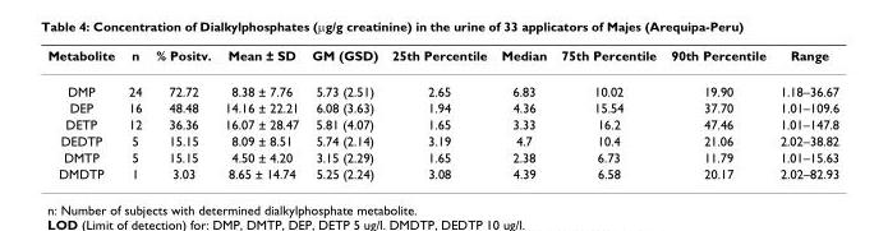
<table><thead><tr><td>Metabolite</td><td>n</td><td>% Positv.</td><td>Mean ± SD</td><td>GM (GSD)</td><td>25th Percentile</td><td>Median</td><td>75th Percentile</td><td>90th Percentile</td><td>Range</td></tr></thead><tbody><tr><td>DMP</td><td>24</td><td>72.72</td><td>8.38 ± 7.76</td><td>5.73 (2.51)</td><td>2.65</td><td>6.83</td><td>10.02</td><td>19.90</td><td>1.18–36.67</td></tr><tr><td>DEP</td><td>16</td><td>48.48</td><td>14.16 ± 22.21</td><td>6.08 (3.63)</td><td>1.94</td><td>4.36</td><td>15.54</td><td>37.70</td><td>1.01–109.6</td></tr><tr><td>DETP</td><td>12</td><td>36.36</td><td>16.07 ± 28.47</td><td>5.81 (4.07)</td><td>1.65</td><td>3.33</td><td>16.2</td><td>47.46</td><td>1.01–147.8</td></tr><tr><td>DEDTP</td><td>5</td><td>15.15</td><td>8.09 ± 8.51</td><td>5.74 (2.14)</td><td>3.19</td><td>4.7</td><td>10.4</td><td>21.06</td><td>2.02–38.82</td></tr><tr><td>DMTP</td><td>5</td><td>15.15</td><td>4.50 ± 4.20</td><td>3.15 (2.29)</td><td>1.65</td><td>2.38</td><td>6.73</td><td>11.79</td><td>1.01–15.63</td></tr><tr><td>DMDTP</td><td>1</td><td>3.03</td><td>8.65 ± 14.74</td><td>5.25 (2.24)</td><td>3.08</td><td>4.39</td><td>6.58</td><td>20.17</td><td>2.02–82.93</td></tr></tbody></table>